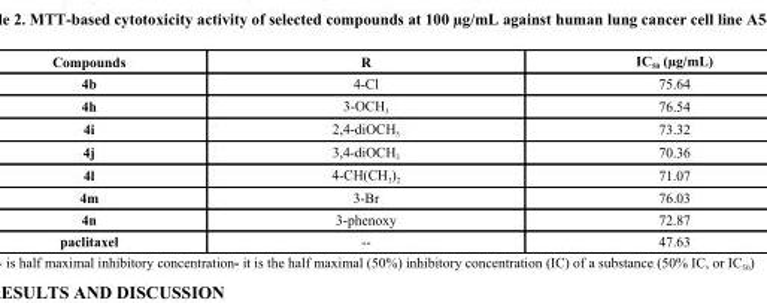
<table><thead><tr><td>Compounds</td><td>R</td><td>IC<sub>50</sub> (µg/mL)</td></tr></thead><tbody><tr><td>4b</td><td>4-Cl</td><td>75.64</td></tr><tr><td>4h</td><td>3-OCH<sub>3</sub></td><td>76.54</td></tr><tr><td>4i</td><td>2,4-diOCH<sub>3</sub></td><td>73.32</td></tr><tr><td>4j</td><td>3,4-diOCH<sub>3</sub></td><td>70.36</td></tr><tr><td>4l</td><td>4-CH(CH<sub>3</sub>)<sub>2</sub></td><td>71.07</td></tr><tr><td>4m</td><td>3-Br</td><td>76.03</td></tr><tr><td>4n</td><td>3-phenoxy</td><td>72.87</td></tr><tr><td>paclitaxel</td><td>--</td><td>47.63</td></tr></tbody></table>